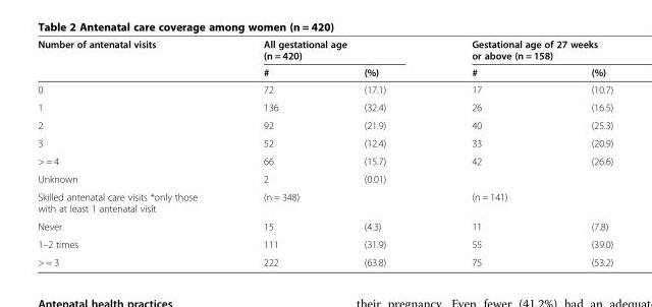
<table><thead><tr><td rowspan="2">Number of antenatal visits</td><td colspan="2">All gestational age (n = 420)</td><td colspan="2">Gestational age of 27 weeks or above (n = 158)</td></tr><tr><td>#</td><td>(%)</td><td>#</td><td>(%)</td></tr></thead><tbody><tr><td>0</td><td>72</td><td>(17.1)</td><td>17</td><td>(10.7)</td></tr><tr><td>1</td><td>136</td><td>(32.4)</td><td>26</td><td>(16.5)</td></tr><tr><td>2</td><td>92</td><td>(21.9)</td><td>40</td><td>(25.3)</td></tr><tr><td>3</td><td>52</td><td>(12.4)</td><td>33</td><td>(20.9)</td></tr><tr><td>&gt; = 4</td><td>66</td><td>(15.7)</td><td>42</td><td>(26.6)</td></tr><tr><td>Unknown</td><td>2</td><td>(0.01)</td><td></td><td></td></tr><tr><td>Skilled antenatal care visits *only those with at least 1 antenatal visit</td><td colspan="2">(n = 348)</td><td colspan="2">(n = 141)</td></tr><tr><td>Never</td><td>15</td><td>(4.3)</td><td>11</td><td>(7.8)</td></tr><tr><td>1–2 times</td><td>111</td><td>(31.9)</td><td>55</td><td>(39.0)</td></tr><tr><td>&gt; = 3</td><td>222</td><td>(63.8)</td><td>75</td><td>(53.2)</td></tr></tbody></table>